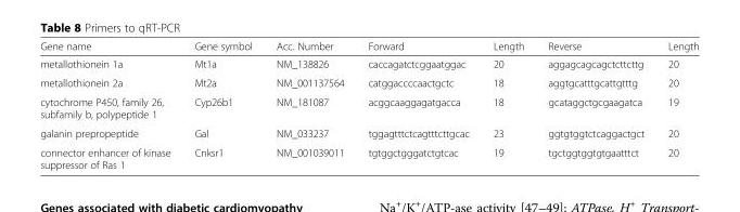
<table><thead><tr><td>Gene name</td><td>Gene symbol</td><td>Acc. Number</td><td>Forward</td><td>Length</td><td>Reverse</td><td>Length</td></tr></thead><tbody><tr><td>metallothionein 1a</td><td>Mt1a</td><td>NM_138826</td><td>caccagatctcggaatggac</td><td>20</td><td>aggagcagcagctcttcttg</td><td>20</td></tr><tr><td>metallothionein 2a</td><td>Mt2a</td><td>NM_001137564</td><td>catggaccccaactgctc</td><td>18</td><td>aggtgcatttgcattgtttg</td><td>20</td></tr><tr><td>cytochrome P450, family 26, subfamily b, polypeptide 1</td><td>Cyp26b1</td><td>NM_181087</td><td>acggcaaggagatgacca</td><td>18</td><td>gcataggctgcgaagatca</td><td>19</td></tr><tr><td>galanin prepropeptide</td><td>Gal</td><td>NM_033237</td><td>tggagtttctcagtttcttgcac</td><td>23</td><td>ggtgtggtctcaggactgct</td><td>20</td></tr><tr><td>connector enhancer of kinase suppressor of Ras 1</td><td>Cnksr1</td><td>NM_001039011</td><td>tgtggctgggatctgtcac</td><td>19</td><td>tgctggtggtgtgaatttct</td><td>20</td></tr></tbody></table>